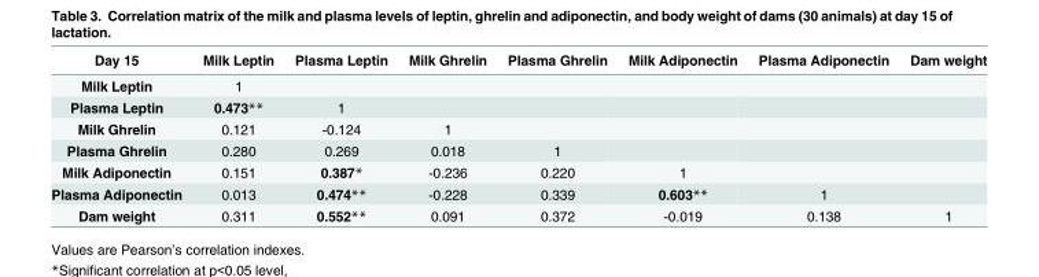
<table><thead><tr><td>Day 15</td><td>Milk Leptin</td><td>Plasma Leptin</td><td>Milk Ghrelin</td><td>Plasma Ghrelin</td><td>Milk Adiponectin</td><td>Plasma Adiponectin</td><td>Dam weight</td></tr></thead><tbody><tr><td>Milk Leptin</td><td>1</td><td></td><td></td><td></td><td></td><td></td><td></td></tr><tr><td>Plasma Leptin</td><td>0.473**</td><td>1</td><td></td><td></td><td></td><td></td><td></td></tr><tr><td>Milk Ghrelin</td><td>0.121</td><td>-0.124</td><td>1</td><td></td><td></td><td></td><td></td></tr><tr><td>Plasma Ghrelin</td><td>0.280</td><td>0.269</td><td>0.018</td><td>1</td><td></td><td></td><td></td></tr><tr><td>Milk Adiponectin</td><td>0.151</td><td>0.387*</td><td>-0.236</td><td>0.220</td><td>1</td><td></td><td></td></tr><tr><td>Plasma Adiponectin</td><td>0.013</td><td>0.474**</td><td>-0.228</td><td>0.339</td><td>0.603**</td><td>1</td><td></td></tr><tr><td>Dam weight</td><td>0.311</td><td>0.552**</td><td>0.091</td><td>0.372</td><td>-0.019</td><td>0.138</td><td>1</td></tr></tbody></table>